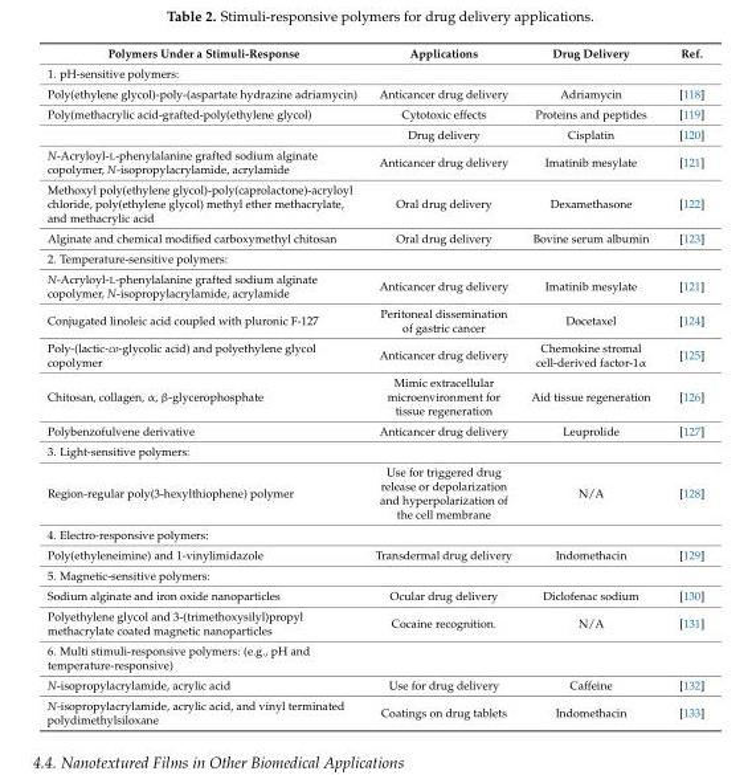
<table><thead><tr><td>Polymers Under a Stimuli-Response</td><td>Applications</td><td>Drug Delivery</td><td>Ref.</td></tr></thead><tbody><tr><td colspan="4">1. pH-sensitive polymers:</td></tr><tr><td>Poly(ethylene glycol)-poly-(aspartate hydrazine adriamycin)</td><td>Anticancer drug delivery</td><td>Adriamycin</td><td>[118]</td></tr><tr><td rowspan="2">Poly(methacrylic acid-grafted-poly(ethylene glycol)</td><td>Cytotoxic effects</td><td>Proteins and peptides</td><td>[119]</td></tr><tr><td>Drug delivery</td><td>Cisplatin</td><td>[120]</td></tr><tr><td>N-Acryloyl-L-phenylalanine grafted sodium alginate copolymer, N-isopropylacrylamide, acrylamide</td><td>Anticancer drug delivery</td><td>Imatinib mesylate</td><td>[121]</td></tr><tr><td>Methoxyl poly(ethylene glycol)-poly(caprolactone)-acryloyl chloride, poly(ethylene glycol) methyl ether methacrylate, and methacrylic acid</td><td>Oral drug delivery</td><td>Dexamethasone</td><td>[122]</td></tr><tr><td>Alginate and chemical modified carboxymethyl chitosan</td><td>Oral drug delivery</td><td>Bovine serum albumin</td><td>[123]</td></tr><tr><td colspan="4">2. Temperature-sensitive polymers:</td></tr><tr><td>N-Acryloyl-L-phenylalanine grafted sodium alginate copolymer, N-isopropylacrylamide, acrylamide</td><td>Anticancer drug delivery</td><td>Imatinib mesylate</td><td>[121]</td></tr><tr><td>Conjugated linoleic acid coupled with pluronic F-127</td><td>Peritoneal dissemination of gastric cancer</td><td>Docetaxel</td><td>[124]</td></tr><tr><td>Poly-(lactic-co-glycolic acid) and polyethylene glycol copolymer</td><td>Anticancer drug delivery</td><td>Chemokine stromal cell-derived factor-1α</td><td>[125]</td></tr><tr><td>Chitosan, collagen, α, β-glycerophosphate</td><td>Mimic extracellular microenvironment for tissue regeneration</td><td>Aid tissue regeneration</td><td>[126]</td></tr><tr><td>Polybenzofulvene derivative</td><td>Anticancer drug delivery</td><td>Leuprolide</td><td>[127]</td></tr><tr><td colspan="4">3. Light-sensitive polymers:</td></tr><tr><td>Region-regular poly(3-hexylthiophene) polymer</td><td>Use for triggered drug release or depolarization and hyperpolarization of the cell membrane</td><td>N/A</td><td>[128]</td></tr><tr><td colspan="4">4. Electro-responsive polymers:</td></tr><tr><td>Poly(ethyleneimine) and 1-vinylimidazole</td><td>Transdermal drug delivery</td><td>Indomethacin</td><td>[129]</td></tr><tr><td colspan="4">5. Magnetic-sensitive polymers:</td></tr><tr><td>Sodium alginate and iron oxide nanoparticles</td><td>Ocular drug delivery</td><td>Diclofenac sodium</td><td>[130]</td></tr><tr><td>Polyethylene glycol and 3-(trimethoxysilyl)propyl methacrylate coated magnetic nanoparticles</td><td>Cocaine recognition.</td><td>N/A</td><td>[131]</td></tr><tr><td colspan="4">6. Multi stimuli-responsive polymers: (e.g., pH and temperature-responsive)</td></tr><tr><td>N-isopropylacrylamide, acrylic acid</td><td>Use for drug delivery</td><td>Caffeine</td><td>[132]</td></tr><tr><td>N-isopropylacrylamide, acrylic acid, and vinyl terminated polydimethylsiloxane</td><td>Coatings on drug tablets</td><td>Indomethacin</td><td>[133]</td></tr></tbody></table>